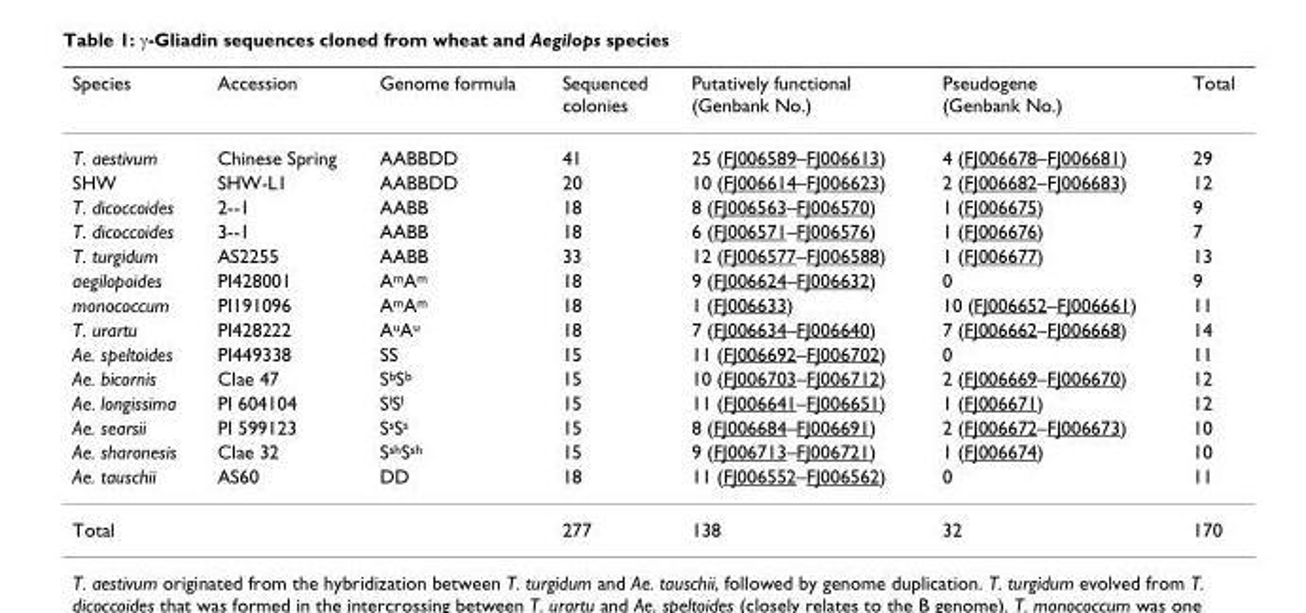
<table><thead><tr><td>Species</td><td>Accession</td><td>Genome formula</td><td>Sequenced colonies</td><td>Putatively functional (Genbank No.)</td><td>Pseudogene (Genbank No.)</td><td>Total</td></tr></thead><tbody><tr><td>T. aestivum</td><td>Chinese Spring</td><td>AABBDD</td><td>41</td><td>25 (FJ006589–FJ006613)</td><td>4 (FJ006678–FJ006681)</td><td>29</td></tr><tr><td>SHW</td><td>SHW-L1</td><td>AABBDD</td><td>20</td><td>10 (FJ006614–FJ006623)</td><td>2 (FJ006682–FJ006683)</td><td>12</td></tr><tr><td>T. dicoccoides</td><td>2--1</td><td>AABB</td><td>18</td><td>8 (FJ006563–FJ006570)</td><td>1 (FJ006675)</td><td>9</td></tr><tr><td>T. dicoccoides</td><td>3--1</td><td>AABB</td><td>18</td><td>6 (FJ006571–FJ006576)</td><td>1 (FJ006676)</td><td>7</td></tr><tr><td>T. turgidum</td><td>AS2255</td><td>AABB</td><td>33</td><td>12 (FJ006577–FJ006588)</td><td>1 (FJ006677)</td><td>13</td></tr><tr><td>aegilopoides</td><td>PI428001</td><td>A<sup>m</sup>A<sup>m</sup></td><td>18</td><td>9 (FJ006624–FJ006632)</td><td>0</td><td>9</td></tr><tr><td>monococcum</td><td>PI191096</td><td>A<sup>m</sup>A<sup>m</sup></td><td>18</td><td>1 (FJ006633)</td><td>10 (FJ006652–FJ006661)</td><td>11</td></tr><tr><td>T. urartu</td><td>PI428222</td><td>A<sup>u</sup>A<sup>u</sup></td><td>18</td><td>7 (FJ006634–FJ006640)</td><td>7 (FJ006662–FJ006668)</td><td>14</td></tr><tr><td>Ae. speltoides</td><td>PI449338</td><td>SS</td><td>15</td><td>11 (FJ006692–FJ006702)</td><td>0</td><td>11</td></tr><tr><td>Ae. bicornis</td><td>CIae 47</td><td>S<sup>b</sup>S<sup>b</sup></td><td>15</td><td>10 (FJ006703–FJ006712)</td><td>2 (FJ006669–FJ006670)</td><td>12</td></tr><tr><td>Ae. longissima</td><td>PI 604104</td><td>S<sup>l</sup>S<sup>l</sup></td><td>15</td><td>11 (FJ006641–FJ006651)</td><td>1 (FJ006671)</td><td>12</td></tr><tr><td>Ae. searsii</td><td>PI 599123</td><td>S<sup>s</sup>S<sup>s</sup></td><td>15</td><td>8 (FJ006684–FJ006691)</td><td>2 (FJ006672–FJ006673)</td><td>10</td></tr><tr><td>Ae. sharonesis</td><td>CIae 32</td><td>S<sup>sh</sup>S<sup>sh</sup></td><td>15</td><td>9 (FJ006713–FJ006721)</td><td>1 (FJ006674)</td><td>10</td></tr><tr><td>Ae. tauschii</td><td>AS60</td><td>DD</td><td>18</td><td>11 (FJ006552–FJ006562)</td><td>0</td><td>11</td></tr><tr><td>Total</td><td></td><td></td><td>277</td><td>138</td><td>32</td><td>170</td></tr></tbody></table>